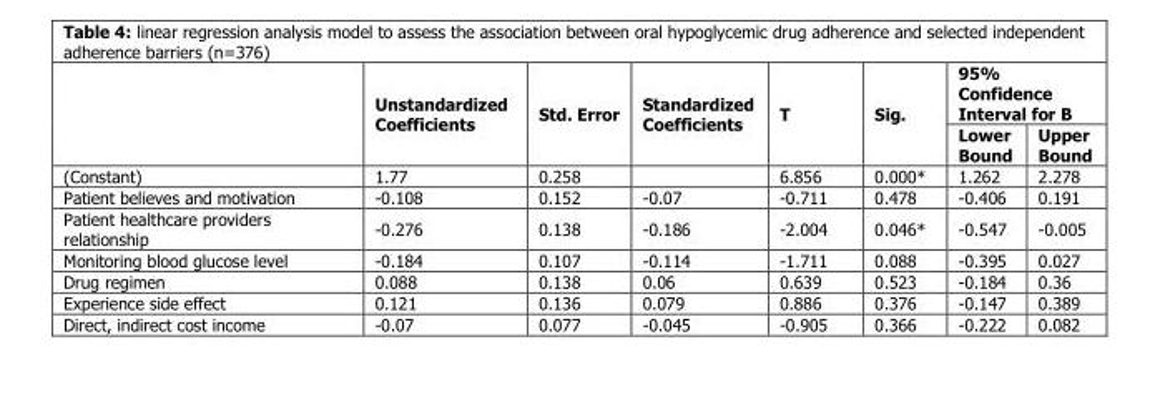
<table><thead><tr><td rowspan="2"></td><td rowspan="2">Unstandardized Coefficients</td><td rowspan="2">Std. Error</td><td rowspan="2">Standardized Coefficients</td><td rowspan="2">T</td><td rowspan="2">Sig.</td><td colspan="2">95% Confidence Interval for B</td></tr><tr><td>Lower Bound</td><td>Upper Bound</td></tr></thead><tbody><tr><td>(Constant)</td><td>1.77</td><td>0.258</td><td></td><td>6.856</td><td>0.000*</td><td>1.262</td><td>2.278</td></tr><tr><td>Patient believes and motivation</td><td>-0.108</td><td>0.152</td><td>-0.07</td><td>-0.711</td><td>0.478</td><td>-0.406</td><td>0.191</td></tr><tr><td>Patient healthcare providers relationship</td><td>-0.276</td><td>0.138</td><td>-0.186</td><td>-2.004</td><td>0.046*</td><td>-0.547</td><td>-0.005</td></tr><tr><td>Monitoring blood glucose level</td><td>-0.184</td><td>0.107</td><td>-0.114</td><td>-1.711</td><td>0.088</td><td>-0.395</td><td>0.027</td></tr><tr><td>Drug regimen</td><td>0.088</td><td>0.138</td><td>0.06</td><td>0.639</td><td>0.523</td><td>-0.184</td><td>0.36</td></tr><tr><td>Experience side effect</td><td>0.121</td><td>0.136</td><td>0.079</td><td>0.886</td><td>0.376</td><td>-0.147</td><td>0.389</td></tr><tr><td>Direct, indirect cost income</td><td>-0.07</td><td>0.077</td><td>-0.045</td><td>-0.905</td><td>0.366</td><td>-0.222</td><td>0.082</td></tr></tbody></table>